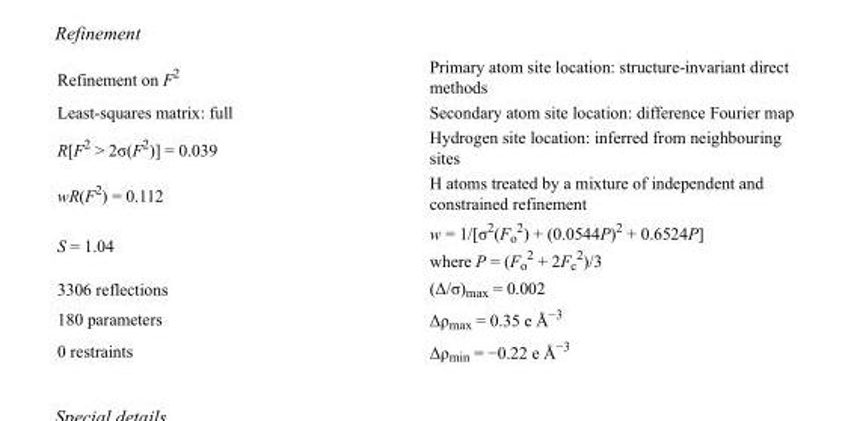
<table><tbody><tr><td>Refinement on F<sup>2</sup></td><td>Primary atom site location: structure-invariant direct methods</td></tr><tr><td>Least-squares matrix: full</td><td>Secondary atom site location: difference Fourier map</td></tr><tr><td>R[F<sup>2</sup> &gt; 2σ(F<sup>2</sup>)] = 0.039</td><td>Hydrogen site location: inferred from neighbouring sites</td></tr><tr><td>wR(F<sup>2</sup>) = 0.112</td><td>H atoms treated by a mixture of independent and constrained refinement</td></tr><tr><td>S = 1.04</td><td>w = 1/[σ<sup>2</sup>(F<sub>o</sub> <sup>2</sup>) + (0.0544P)<sup>2</sup> + 0.6524P] where P = (F<sub>o</sub> <sup>2</sup> + 2F<sub>c</sub> <sup>2</sup>)/3</td></tr><tr><td>3306 reflections</td><td>(Δ/σ)<sub>max</sub> = 0.002</td></tr><tr><td>180 parameters</td><td>Δρ<sub>max</sub> = 0.35 e Å<sup>−3</sup></td></tr><tr><td>0 restraints</td><td>Δρ<sub>min</sub> = −0.22 e Å<sup>−3</sup></td></tr></tbody></table>